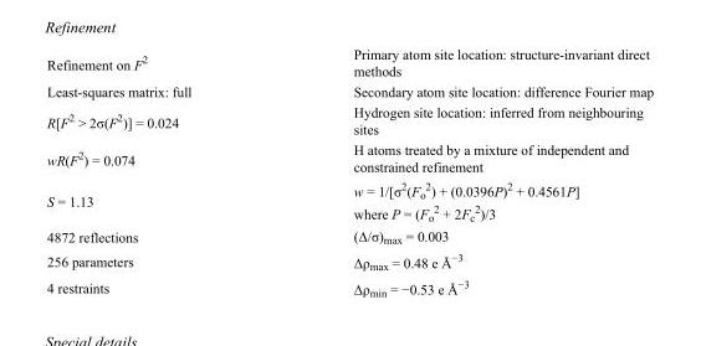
<table><tbody><tr><td>Refinement on F<sup>2</sup></td><td>Primary atom site location: structure-invariant direct methods</td></tr><tr><td>Least-squares matrix: full</td><td>Secondary atom site location: difference Fourier map</td></tr><tr><td>R[F<sup>2</sup> &gt; 2σ(F<sup>2</sup>)] = 0.024</td><td>Hydrogen site location: inferred from neighbouring sites</td></tr><tr><td>wR(F<sup>2</sup>) = 0.074</td><td>H atoms treated by a mixture of independent and constrained refinement</td></tr><tr><td>S = 1.13</td><td>w = 1/[σ<sup>2</sup>(F<sub>o</sub> <sup>2</sup>) + (0.0396P)<sup>2</sup> + 0.4561P] where P = (F<sub>o</sub> <sup>2</sup> + 2F<sub>c</sub> <sup>2</sup>)/3</td></tr><tr><td>4872 reflections</td><td>(Δ/σ)<sub>max</sub> = 0.003</td></tr><tr><td>256 parameters</td><td>Δρ<sub>max</sub> = 0.48 e Å<sup>−3</sup></td></tr><tr><td>4 restraints</td><td>Δρ<sub>min</sub> = −0.53 e Å<sup>−3</sup></td></tr></tbody></table>